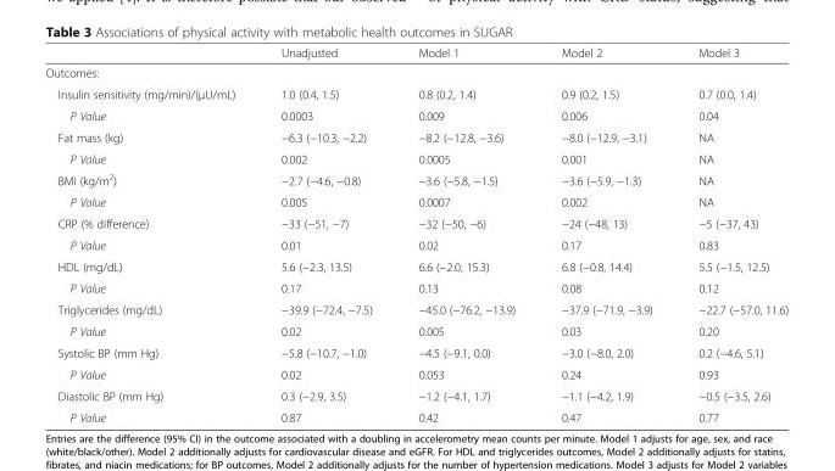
<table><thead><tr><td></td><td>Unadjusted</td><td>Model 1</td><td>Model 2</td><td>Model 3</td></tr></thead><tbody><tr><td colspan="5">Outcomes:</td></tr><tr><td>Insulin sensitivity (mg/min)/(μU/mL)</td><td>1.0 (0.4, 1.5)</td><td>0.8 (0.2, 1.4)</td><td>0.9 (0.2, 1.5)</td><td>0.7 (0.0, 1.4)</td></tr><tr><td>P Value</td><td>0.0003</td><td>0.009</td><td>0.006</td><td>0.04</td></tr><tr><td>Fat mass (kg)</td><td>−6.3 (−10.3, −2.2)</td><td>−8.2 (−12.8, −3.6)</td><td>−8.0 (−12.9, −3.1)</td><td>NA</td></tr><tr><td>P Value</td><td>0.002</td><td>0.0005</td><td>0.001</td><td>NA</td></tr><tr><td>BMI (kg/m<sup>2</sup>)</td><td>−2.7 (−4.6, −0.8)</td><td>−3.6 (−5.8, −1.5)</td><td>−3.6 (−5.9, −1.3)</td><td>NA</td></tr><tr><td>P Value</td><td>0.005</td><td>0.0007</td><td>0.002</td><td>NA</td></tr><tr><td>CRP (% difference)</td><td>−33 (−51, −7)</td><td>−32 (−50, −6)</td><td>−24 (−48, 13)</td><td>−5 (−37, 43)</td></tr><tr><td>P Value</td><td>0.01</td><td>0.02</td><td>0.17</td><td>0.83</td></tr><tr><td>HDL (mg/dL)</td><td>5.6 (−2.3, 13.5)</td><td>6.6 (−2.0, 15.3)</td><td>6.8 (−0.8, 14.4)</td><td>5.5 (−1.5, 12.5)</td></tr><tr><td>P Value</td><td>0.17</td><td>0.13</td><td>0.08</td><td>0.12</td></tr><tr><td>Triglycerides (mg/dL)</td><td>−39.9 (−72.4, −7.5)</td><td>−45.0 (−76.2, −13.9)</td><td>−37.9 (−71.9, −3.9)</td><td>−22.7 (−57.0, 11.6)</td></tr><tr><td>P Value</td><td>0.02</td><td>0.005</td><td>0.03</td><td>0.20</td></tr><tr><td>Systolic BP (mm Hg)</td><td>−5.8 (−10.7, −1.0)</td><td>−4.5 (−9.1, 0.0)</td><td>−3.0 (−8.0, 2.0)</td><td>0.2 (−4.6, 5.1)</td></tr><tr><td>P Value</td><td>0.02</td><td>0.053</td><td>0.24</td><td>0.93</td></tr><tr><td>Diastolic BP (mm Hg)</td><td>0.3 (−2.9, 3.5)</td><td>−1.2 (−4.1, 1.7)</td><td>−1.1 (−4.2, 1.9)</td><td>−0.5 (−3.5, 2.6)</td></tr><tr><td>P Value</td><td>0.87</td><td>0.42</td><td>0.47</td><td>0.77</td></tr></tbody></table>